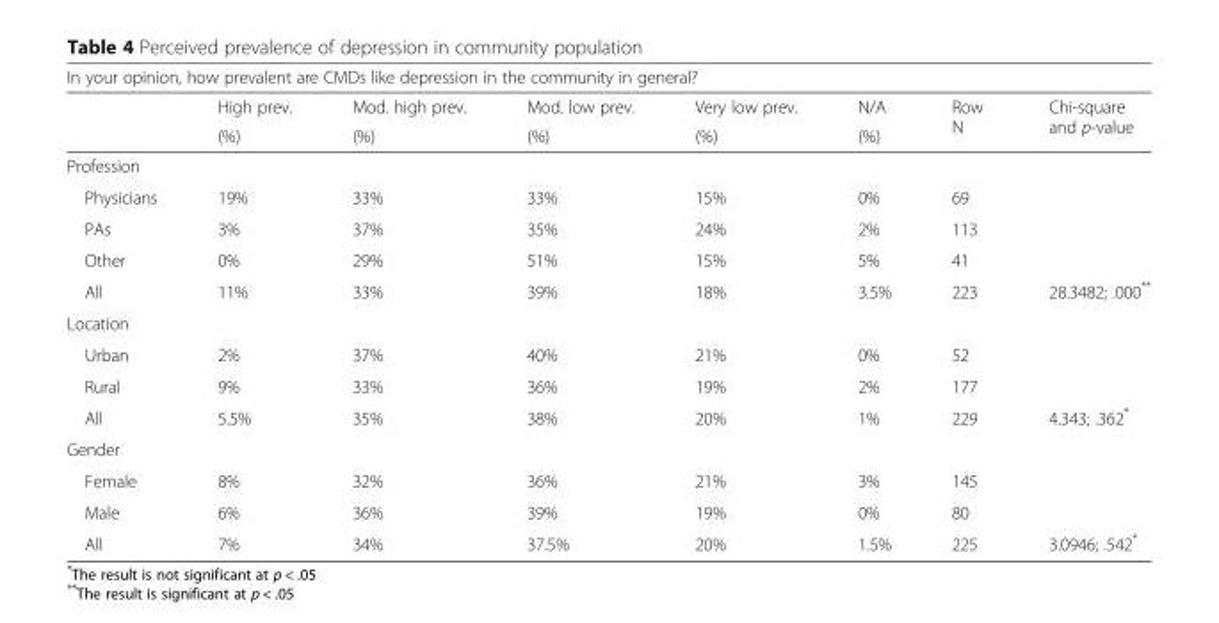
<table><thead><tr><td colspan="8">In your opinion, how prevalent are CMDs like depression in the community in general?</td></tr><tr><td rowspan="2"></td><td rowspan="2">High prev. (%)</td><td rowspan="2">Mod. high prev. (%)</td><td rowspan="2">Mod. low prev. (%)</td><td rowspan="2">Very low prev. (%)</td><td rowspan="2">N/A (%)</td><td rowspan="2">Row N</td><td rowspan="2">Chi-square and p-value</td></tr><tr></tr></thead><tbody><tr><td colspan="8">Profession</td></tr><tr><td>Physicians</td><td>19%</td><td>33%</td><td>33%</td><td>15%</td><td>0%</td><td>69</td><td></td></tr><tr><td>PAs</td><td>3%</td><td>37%</td><td>35%</td><td>24%</td><td>2%</td><td>113</td><td></td></tr><tr><td>Other</td><td>0%</td><td>29%</td><td>51%</td><td>15%</td><td>5%</td><td>41</td><td></td></tr><tr><td>All</td><td>11%</td><td>33%</td><td>39%</td><td>18%</td><td>3.5%</td><td>223</td><td>28.3482; .000**</td></tr><tr><td colspan="8">Location</td></tr><tr><td>Urban</td><td>2%</td><td>37%</td><td>40%</td><td>21%</td><td>0%</td><td>52</td><td></td></tr><tr><td>Rural</td><td>9%</td><td>33%</td><td>36%</td><td>19%</td><td>2%</td><td>177</td><td></td></tr><tr><td>All</td><td>5.5%</td><td>35%</td><td>38%</td><td>20%</td><td>1%</td><td>229</td><td>4.343; .362*</td></tr><tr><td colspan="8">Gender</td></tr><tr><td>Female</td><td>8%</td><td>32%</td><td>36%</td><td>21%</td><td>3%</td><td>145</td><td></td></tr><tr><td>Male</td><td>6%</td><td>36%</td><td>39%</td><td>19%</td><td>0%</td><td>80</td><td></td></tr><tr><td>All</td><td>7%</td><td>34%</td><td>37.5%</td><td>20%</td><td>1.5%</td><td>225</td><td>3.0946; .542*</td></tr></tbody></table>